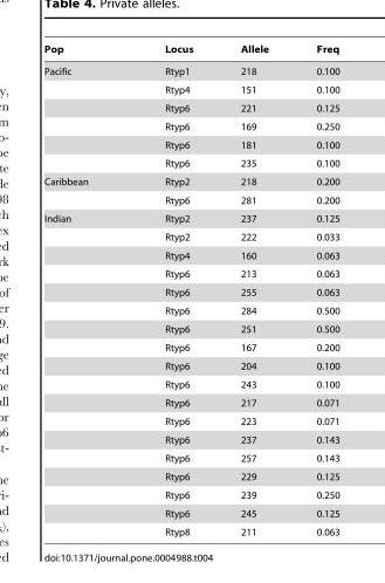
<table><thead><tr><td>Pop</td><td>Locus</td><td>Allele</td><td>Freq</td></tr></thead><tbody><tr><td rowspan="6">Pacific</td><td>Rtyp1</td><td>218</td><td>0.100</td></tr><tr><td>Rtyp4</td><td>151</td><td>0.100</td></tr><tr><td>Rtyp6</td><td>221</td><td>0.125</td></tr><tr><td>Rtyp6</td><td>169</td><td>0.250</td></tr><tr><td>Rtyp6</td><td>181</td><td>0.100</td></tr><tr><td>Rtyp6</td><td>235</td><td>0.100</td></tr><tr><td rowspan="2">Caribbean</td><td>Rtyp2</td><td>218</td><td>0.200</td></tr><tr><td>Rtyp6</td><td>281</td><td>0.200</td></tr><tr><td rowspan="18">Indian</td><td>Rtyp2</td><td>237</td><td>0.125</td></tr><tr><td>Rtyp2</td><td>222</td><td>0.033</td></tr><tr><td>Rtyp4</td><td>160</td><td>0.063</td></tr><tr><td>Rtyp6</td><td>213</td><td>0.063</td></tr><tr><td>Rtyp6</td><td>255</td><td>0.063</td></tr><tr><td>Rtyp6</td><td>284</td><td>0.500</td></tr><tr><td>Rtyp6</td><td>251</td><td>0.500</td></tr><tr><td>Rtyp6</td><td>167</td><td>0.200</td></tr><tr><td>Rtyp6</td><td>204</td><td>0.100</td></tr><tr><td>Rtyp6</td><td>243</td><td>0.100</td></tr><tr><td>Rtyp6</td><td>217</td><td>0.071</td></tr><tr><td>Rtyp6</td><td>223</td><td>0.071</td></tr><tr><td>Rtyp6</td><td>237</td><td>0.143</td></tr><tr><td>Rtyp6</td><td>257</td><td>0.143</td></tr><tr><td>Rtyp6</td><td>229</td><td>0.125</td></tr><tr><td>Rtyp6</td><td>239</td><td>0.250</td></tr><tr><td>Rtyp6</td><td>245</td><td>0.125</td></tr><tr><td>Rtyp8</td><td>211</td><td>0.063</td></tr></tbody></table>